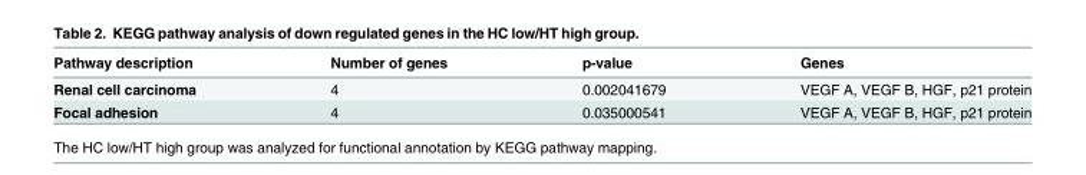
<table><thead><tr><td>Pathway description</td><td>Number of genes</td><td>p-value</td><td>Genes</td></tr></thead><tbody><tr><td>Renal cell carcinoma</td><td>4</td><td>0.002041679</td><td>VEGF A, VEGF B, HGF, p21 protein</td></tr><tr><td>Focal adhesion</td><td>4</td><td>0.035000541</td><td>VEGF A, VEGF B, HGF, p21 protein</td></tr></tbody></table>